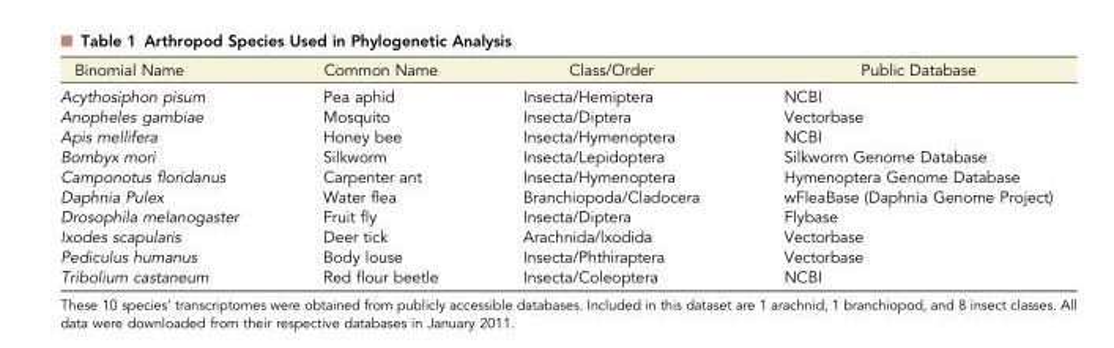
<table><thead><tr><td>Binomial Name</td><td>Common Name</td><td>Class/Order</td><td>Public Database</td></tr></thead><tbody><tr><td>Acythosiphon pisum</td><td>Pea aphid</td><td>Insecta/Hemiptera</td><td>NCBI</td></tr><tr><td>Anopheles gambiae</td><td>Mosquito</td><td>Insecta/Diptera</td><td>Vectorbase</td></tr><tr><td>Apis mellifera</td><td>Honey bee</td><td>Insecta/Hymenoptera</td><td>NCBI</td></tr><tr><td>Bombyx mori</td><td>Silkworm</td><td>Insecta/Lepidoptera</td><td>Silkworm Genome Database</td></tr><tr><td>Camponotus floridanus</td><td>Carpenter ant</td><td>Insecta/Hymenoptera</td><td>Hymenoptera Genome Database</td></tr><tr><td>Daphnia Pulex</td><td>Water flea</td><td>Branchiopoda/Cladocera</td><td>wFleaBase (Daphnia Genome Project)</td></tr><tr><td>Drosophila melanogaster</td><td>Fruit fly</td><td>Insecta/Diptera</td><td>Flybase</td></tr><tr><td>Ixodes scapularis</td><td>Deer tick</td><td>Arachnida/lxodida</td><td>Vectorbase</td></tr><tr><td>Pediculus humanus</td><td>Body louse</td><td>Insecta/Phthiraptera</td><td>Vectorbase</td></tr><tr><td>Tribolium castaneum</td><td>Red flour beetle</td><td>Insecta/Coleoptera</td><td>NCBI</td></tr></tbody></table>